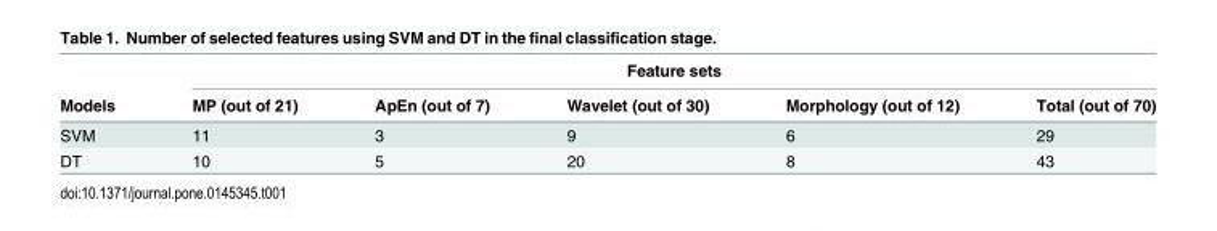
<table><thead><tr><td rowspan="2">Models</td><td colspan="5">Feature sets</td></tr><tr><td>MP (out of 21)</td><td>ApEn (out of 7)</td><td>Wavelet (out of 30)</td><td>Morphology (out of 12)</td><td>Total (out of 70)</td></tr></thead><tbody><tr><td>SVM</td><td>11</td><td>3</td><td>9</td><td>6</td><td>29</td></tr><tr><td>DT</td><td>10</td><td>5</td><td>20</td><td>8</td><td>43</td></tr></tbody></table>